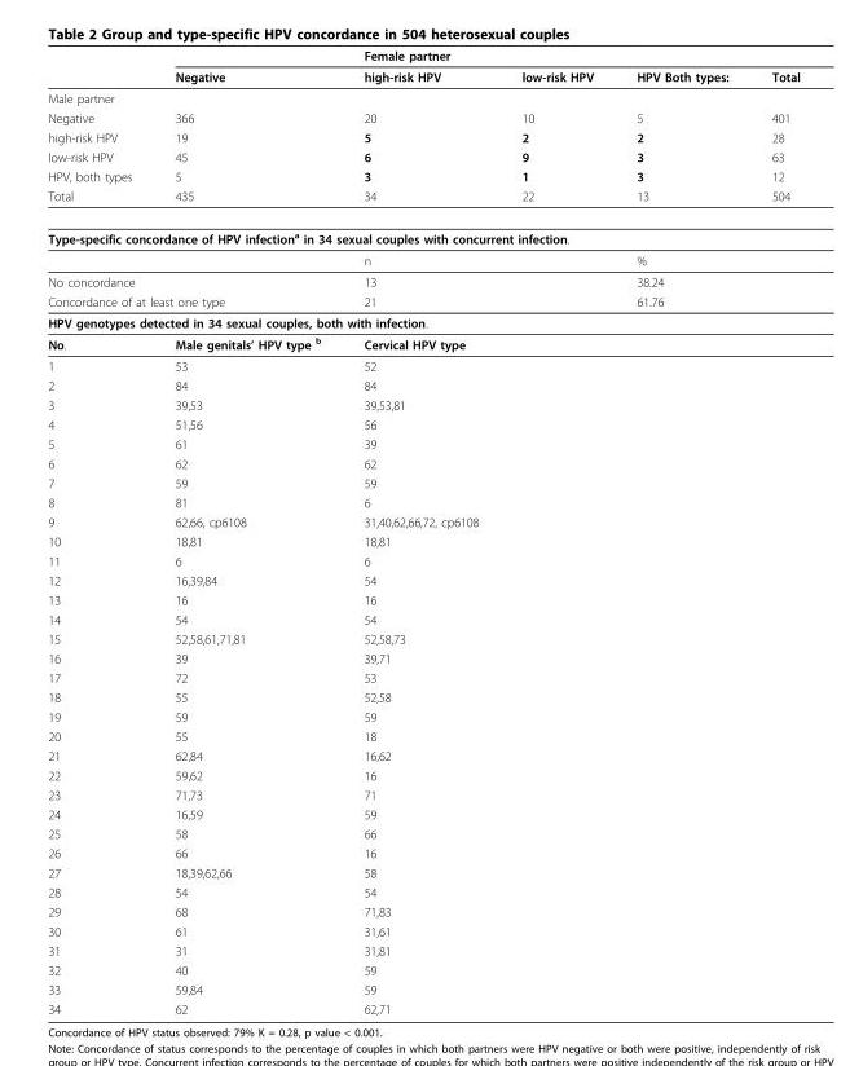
<table><thead><tr><td rowspan="2"></td><td rowspan="2">Negative</td><td colspan="4">Female partner</td></tr><tr><td>high-risk HPV</td><td>low-risk HPV</td><td>HPV Both types:</td><td>Total</td></tr></thead><tbody><tr><td colspan="6">Male partner</td></tr><tr><td>Negative</td><td>366</td><td>20</td><td>10</td><td>5</td><td>401</td></tr><tr><td>high-risk HPV</td><td>19</td><td>5</td><td>2</td><td>2</td><td>28</td></tr><tr><td>low-risk HPV</td><td>45</td><td>6</td><td>9</td><td>3</td><td>63</td></tr><tr><td>HPV, both types</td><td>5</td><td>3</td><td>1</td><td>3</td><td>12</td></tr><tr><td>Total</td><td>435</td><td>34</td><td>22</td><td>13</td><td>504</td></tr><tr><td colspan="6">Type-specific concordance of HPV infection<sup>a</sup> in 34 sexual couples with concurrent infection.</td></tr><tr><td></td><td></td><td colspan="2">n</td><td colspan="2">%</td></tr><tr><td colspan="2">No concordance</td><td colspan="2">13</td><td colspan="2">38.24</td></tr><tr><td colspan="2">Concordance of at least one type</td><td colspan="2">21</td><td colspan="2">61.76</td></tr><tr><td colspan="6">HPV genotypes detected in 34 sexual couples, both with infection.</td></tr><tr><td>No.</td><td>Male genitals’ HPV type <sup>b</sup></td><td>Cervical HPV type</td><td></td><td></td><td></td></tr><tr><td>1</td><td>53</td><td>52</td><td></td><td></td><td></td></tr><tr><td>2</td><td>84</td><td>84</td><td></td><td></td><td></td></tr><tr><td>3</td><td>39,53</td><td>39,53,81</td><td></td><td></td><td></td></tr><tr><td>4</td><td>51,56</td><td>56</td><td></td><td></td><td></td></tr><tr><td>5</td><td>61</td><td>39</td><td></td><td></td><td></td></tr><tr><td>6</td><td>62</td><td>62</td><td></td><td></td><td></td></tr><tr><td>7</td><td>59</td><td>59</td><td></td><td></td><td></td></tr><tr><td>8</td><td>81</td><td>6</td><td></td><td></td><td></td></tr><tr><td>9</td><td>62,66, cp6108</td><td>31,40,62,66,72, cp6108</td><td></td><td></td><td></td></tr><tr><td>10</td><td>18,81</td><td>18,81</td><td></td><td></td><td></td></tr><tr><td>11</td><td>6</td><td>6</td><td></td><td></td><td></td></tr><tr><td>12</td><td>16,39,84</td><td>54</td><td></td><td></td><td></td></tr><tr><td>13</td><td>16</td><td>16</td><td></td><td></td><td></td></tr><tr><td>14</td><td>54</td><td>54</td><td></td><td></td><td></td></tr><tr><td>15</td><td>52,58,61,71,81</td><td>52,58,73</td><td></td><td></td><td></td></tr><tr><td>16</td><td>39</td><td>39,71</td><td></td><td></td><td></td></tr><tr><td>17</td><td>72</td><td>53</td><td></td><td></td><td></td></tr><tr><td>18</td><td>55</td><td>52,58</td><td></td><td></td><td></td></tr><tr><td>19</td><td>59</td><td>59</td><td></td><td></td><td></td></tr><tr><td>20</td><td>55</td><td>18</td><td></td><td></td><td></td></tr><tr><td>21</td><td>62,84</td><td>16,62</td><td></td><td></td><td></td></tr><tr><td>22</td><td>59,62</td><td>16</td><td></td><td></td><td></td></tr><tr><td>23</td><td>71,73</td><td>71</td><td></td><td></td><td></td></tr><tr><td>24</td><td>16,59</td><td>59</td><td></td><td></td><td></td></tr><tr><td>25</td><td>58</td><td>66</td><td></td><td></td><td></td></tr><tr><td>26</td><td>66</td><td>16</td><td></td><td></td><td></td></tr><tr><td>27</td><td>18,39,62,66</td><td>58</td><td></td><td></td><td></td></tr><tr><td>28</td><td>54</td><td>54</td><td></td><td></td><td></td></tr><tr><td>29</td><td>68</td><td>71,83</td><td></td><td></td><td></td></tr><tr><td>30</td><td>61</td><td>31,61</td><td></td><td></td><td></td></tr><tr><td>31</td><td>31</td><td>31,81</td><td></td><td></td><td></td></tr><tr><td>32</td><td>40</td><td>59</td><td></td><td></td><td></td></tr><tr><td>33</td><td>59,84</td><td>59</td><td></td><td></td><td></td></tr><tr><td>34</td><td>62</td><td>62,71</td><td></td><td></td><td></td></tr></tbody></table>